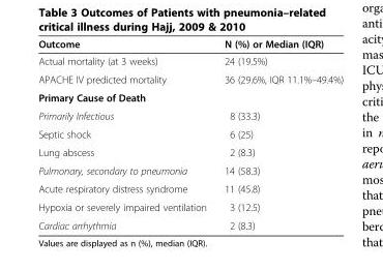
<table><thead><tr><td>Outcome</td><td>N (%) or Median (IQR)</td></tr></thead><tbody><tr><td>Actual mortality (at 3 weeks)</td><td>24 (19.5%)</td></tr><tr><td>APACHE IV predicted mortality</td><td>36 (29.6%, IQR 11.1%–49.4%)</td></tr><tr><td colspan="2">Primary Cause of Death</td></tr><tr><td>Primarily Infectious</td><td>8 (33.3)</td></tr><tr><td>Septic shock</td><td>6 (25)</td></tr><tr><td>Lung abscess</td><td>2 (8.3)</td></tr><tr><td>Pulmonary, secondary to pneumonia</td><td>14 (58.3)</td></tr><tr><td>Acute respiratory distress syndrome</td><td>11 (45.8)</td></tr><tr><td>Hypoxia or severely impaired ventilation</td><td>3 (12.5)</td></tr><tr><td>Cardiac arrhythmia</td><td>2 (8.3)</td></tr></tbody></table>